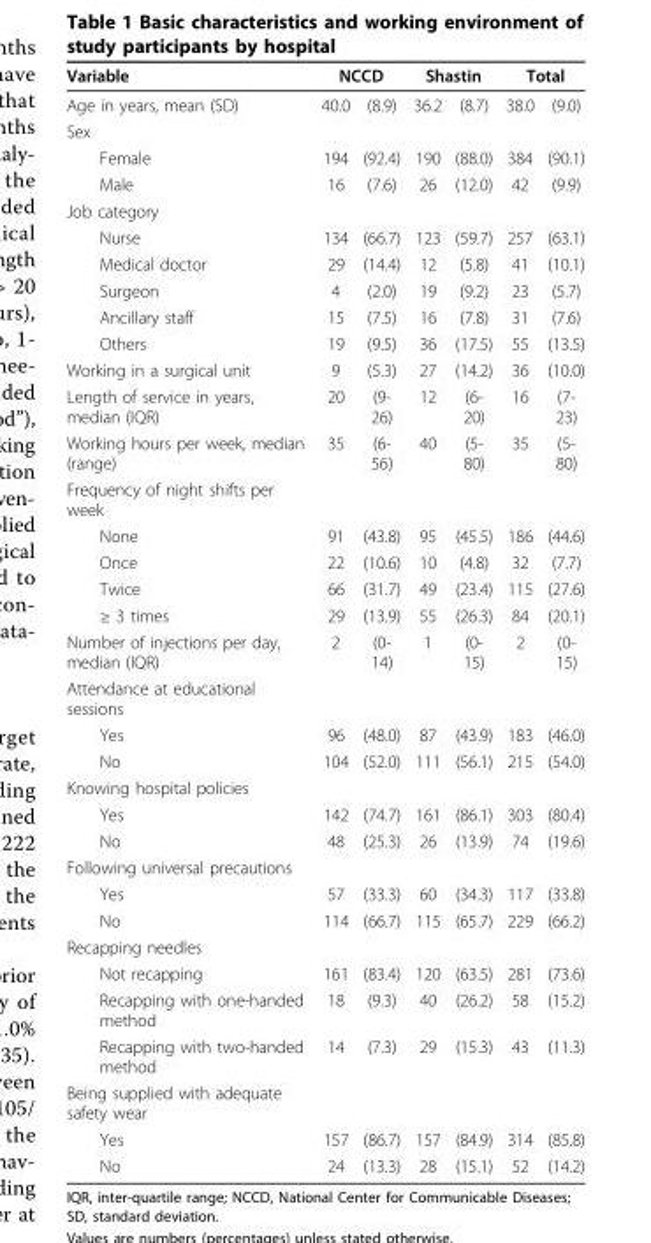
<table><thead><tr><td rowspan="2">Variable Age in years, mean (SD)</td><td colspan="2">NCCD</td><td colspan="2">Shastin</td><td colspan="2">Total</td></tr><tr><td>40.0</td><td>(8.9)</td><td>36.2</td><td>(8.7)</td><td>38.0</td><td>(9.0)</td></tr></thead><tbody><tr><td colspan="7">Sex</td></tr><tr><td>Female</td><td>194</td><td>(92.4)</td><td>190</td><td>(88.0)</td><td>384</td><td>(90.1)</td></tr><tr><td>Male</td><td>16</td><td>(7.6)</td><td>26</td><td>(12.0)</td><td>42</td><td>(9.9)</td></tr><tr><td colspan="7">Job category</td></tr><tr><td>Nurse</td><td>134</td><td>(66.7)</td><td>123</td><td>(59.7)</td><td>257</td><td>(63.1)</td></tr><tr><td>Medical doctor</td><td>29</td><td>(14.4)</td><td>12</td><td>(5.8)</td><td>41</td><td>(10.1)</td></tr><tr><td>Surgeon</td><td>4</td><td>(2.0)</td><td>19</td><td>(9.2)</td><td>23</td><td>(5.7)</td></tr><tr><td>Ancillary staff</td><td>15</td><td>(7.5)</td><td>16</td><td>(7.8)</td><td>31</td><td>(7.6)</td></tr><tr><td>Others</td><td>19</td><td>(9.5)</td><td>36</td><td>(17.5)</td><td>55</td><td>(13.5)</td></tr><tr><td>Working in a surgical unit</td><td>9</td><td>(5.3)</td><td>27</td><td>(14.2)</td><td>36</td><td>(10.0)</td></tr><tr><td>Length of service in years, median (IQR)</td><td>20</td><td>(9- 26)</td><td>12</td><td>(6- 20)</td><td>16</td><td>(7- 23)</td></tr><tr><td>Working hours per week, median (range)</td><td>35</td><td>(6- 56)</td><td>40</td><td>(5- 80)</td><td>35</td><td>(5- 80)</td></tr><tr><td colspan="7">Frequency of night shifts per week</td></tr><tr><td>None</td><td>91</td><td>(43.8)</td><td>95</td><td>(45.5)</td><td>186</td><td>(44.6)</td></tr><tr><td>Once</td><td>22</td><td>(10.6)</td><td>10</td><td>(4.8)</td><td>32</td><td>(7.7)</td></tr><tr><td>Twice</td><td>66</td><td>(31.7)</td><td>49</td><td>(23.4)</td><td>115</td><td>(27.6)</td></tr><tr><td>≥ 3 times</td><td>29</td><td>(13.9)</td><td>55</td><td>(26.3)</td><td>84</td><td>(20.1)</td></tr><tr><td>Number of injections per day, median (IQR)</td><td>2</td><td>(0- 14)</td><td>1</td><td>(0- 15)</td><td>2</td><td>(0- 15)</td></tr><tr><td colspan="7">Attendance at educational sessions</td></tr><tr><td>Yes</td><td>96</td><td>(48.0)</td><td>87</td><td>(43.9)</td><td>183</td><td>(46.0)</td></tr><tr><td>No</td><td>104</td><td>(52.0)</td><td>111</td><td>(56.1)</td><td>215</td><td>(54.0)</td></tr><tr><td colspan="7">Knowing hospital policies</td></tr><tr><td>Yes</td><td>142</td><td>(74.7)</td><td>161</td><td>(86.1)</td><td>303</td><td>(80.4)</td></tr><tr><td>No</td><td>48</td><td>(25.3)</td><td>26</td><td>(13.9)</td><td>74</td><td>(19.6)</td></tr><tr><td colspan="7">Following universal precautions</td></tr><tr><td>Yes</td><td>57</td><td>(33.3)</td><td>60</td><td>(34.3)</td><td>117</td><td>(33.8)</td></tr><tr><td>No</td><td>114</td><td>(66.7)</td><td>115</td><td>(65.7)</td><td>229</td><td>(66.2)</td></tr><tr><td colspan="7">Recapping needles</td></tr><tr><td>Not recapping</td><td>161</td><td>(83.4)</td><td>120</td><td>(63.5)</td><td>281</td><td>(73.6)</td></tr><tr><td>Recapping with one-handed method</td><td>18</td><td>(9.3)</td><td>40</td><td>(26.2)</td><td>58</td><td>(15.2)</td></tr><tr><td>Recapping with two-handed method</td><td>14</td><td>(7.3)</td><td>29</td><td>(15.3)</td><td>43</td><td>(11.3)</td></tr><tr><td colspan="7">Being supplied with adequate safety wear</td></tr><tr><td>Yes</td><td>157</td><td>(86.7)</td><td>157</td><td>(84.9)</td><td>314</td><td>(85.8)</td></tr><tr><td>No</td><td>24</td><td>(13.3)</td><td>28</td><td>(15.1)</td><td>52</td><td>(14.2)</td></tr></tbody></table>